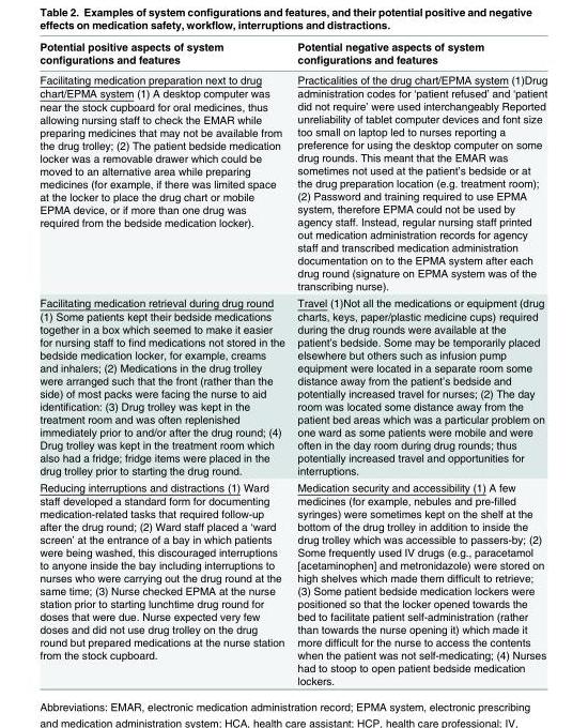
<table><thead><tr><td>Potential positive aspects of system configurations and features</td><td>Potential negative aspects of system configurations and features</td></tr></thead><tbody><tr><td>Facilitating medication preparation next to drug chart/EPMA system (1) A desktop computer was near the stock cupboard for oral medicines, thus allowing nursing staff to check the EMAR while preparing medicines that may not be available from the drug trolley; (2) The patient bedside medication locker was a removable drawer which could be moved to an alternative area while preparing medicines (for example, if there was limited space at the locker to place the drug chart or mobile EPMA device, or if more than one drug was required from the bedside medication locker).</td><td>Practicalities of the drug chart/EPMA system (1)Drug administration codes for ‘patient refused’ and ‘patient did not require’ were used interchangeably Reported unreliability of tablet computer devices and font size too small on laptop led to nurses reporting a preference for using the desktop computer on some drug rounds. This meant that the EMAR was sometimes not used at the patient’s bedside or at the drug preparation location (e.g. treatment room); (2) Password and training required to use EPMA system, therefore EPMA could not be used by agency staff. Instead, regular nursing staff printed out medication administration records for agency staff and transcribed medication administration documentation on to the EPMA system after each drug round (signature on EPMA system was of the transcribing nurse).</td></tr><tr><td>Facilitating medication retrieval during drug round (1) Some patients kept their bedside medications together in a box which seemed to make it easier for nursing staff to find medications not stored in the bedside medication locker, for example, creams and inhalers; (2) Medications in the drug trolley were arranged such that the front (rather than the side) of most packs were facing the nurse to aid identification: (3) Drug trolley was kept in the treatment room and was often replenished immediately prior to and/or after the drug round; (4) Drug trolley was kept in the treatment room which also had a fridge; fridge items were placed in the drug trolley prior to starting the drug round.</td><td>Travel (1)Not all the medications or equipment (drug charts, keys, paper/plastic medicine cups) required during the drug rounds were available at the patient’s bedside. Some may be temporarily placed elsewhere but others such as infusion pump equipment were located in a separate room some distance away from the patient’s bedside and potentially increased travel for nurses; (2) The day room was located some distance away from the patient bed areas which was a particular problem on one ward as some patients were mobile and were often in the day room during drug rounds; thus potentially increased travel and opportunities for interruptions.</td></tr><tr><td>Reducing interruptions and distractions (1) Ward staff developed a standard form for documenting medication-related tasks that required follow-up after the drug round; (2) Ward staff placed a ‘ward screen’ at the entrance of a bay in which patients were being washed, this discouraged interruptions to anyone inside the bay including interruptions to nurses who were carrying out the drug round at the same time; (3) Nurse checked EPMA at the nurse station prior to starting lunchtime drug round for doses that were due. Nurse expected very few doses and did not use drug trolley on the drug round but prepared medications at the nurse station from the stock cupboard.</td><td>Medication security and accessibility (1) A few medicines (for example, nebules and pre-filled syringes) were sometimes kept on the shelf at the bottom of the drug trolley in addition to inside the drug trolley which was accessible to passers-by; (2) Some frequently used IV drugs (e.g., paracetamol [acetaminophen] and metronidazole) were stored on high shelves which made them difficult to retrieve; (3) Some patient bedside medication lockers were positioned so that the locker opened towards the bed to facilitate patient self-administration (rather than towards the nurse opening it) which made it more difficult for the nurse to access the contents when the patient was not self-medicating; (4) Nurses had to stoop to open patient bedside medication lockers.</td></tr></tbody></table>